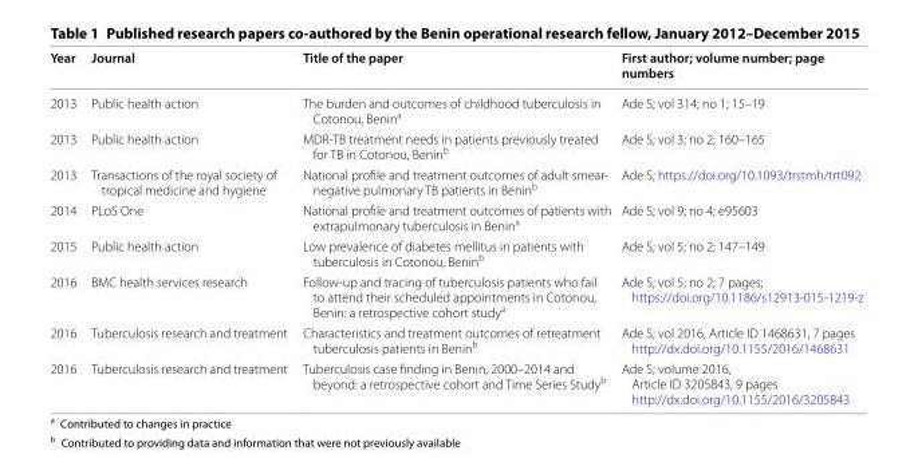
<table><thead><tr><td>Year</td><td>Journal</td><td>Title of the paper</td><td>First author; volume number; page numbers</td></tr></thead><tbody><tr><td>2013</td><td>Public health action</td><td>The burden and outcomes of childhood tuberculosis in Cotonou, Benin<sup>a</sup></td><td>Ade S; vol 314; no 1; 15–19</td></tr><tr><td>2013</td><td>Public health action</td><td>MDR-TB treatment needs in patients previously treated for TB in Cotonou, Benin<sup>b</sup></td><td>Ade S; vol 3; no 2; 160–165</td></tr><tr><td>2013</td><td>Transactions of the royal society of tropical medicine and hygiene</td><td>National profile and treatment outcomes of adult smear- negative pulmonary TB patients in Benin<sup>b</sup></td><td>Ade S; https://doi.org/10.1093/trstmh/trt092</td></tr><tr><td>2014</td><td>PLoS One</td><td>National profile and treatment outcomes of patients with extrapulmonary tuberculosis in Benin<sup>a</sup></td><td>Ade S; vol 9; no 4; e95603</td></tr><tr><td>2015</td><td>Public health action</td><td>Low prevalence of diabetes mellitus in patients with tuberculosis in Cotonou, Benin<sup>b</sup></td><td>Ade S; vol 5; no 2; 147–149</td></tr><tr><td>2016</td><td>BMC health services research</td><td>Follow-up and tracing of tuberculosis patients who fail to attend their scheduled appointments in Cotonou, Benin: a retrospective cohort study<sup>a</sup></td><td>Ade S; vol 5; no 2; 7 pages; https://doi.org/10.1186/s12913-015-1219-z</td></tr><tr><td>2016</td><td>Tuberculosis research and treatment</td><td>Characteristics and treatment outcomes of retreatment tuberculosis patients in Benin<sup>b</sup></td><td>Ade S; vol 2016, Article ID 1468631, 7 pages http://dx.doi.org/10.1155/2016/1468631</td></tr><tr><td>2016</td><td>Tuberculosis research and treatment</td><td>Tuberculosis case finding in Benin, 2000–2014 and beyond: a retrospective cohort and Time Series Study<sup>b</sup></td><td>Ade S; volume 2016, Article ID 3205843, 9 pages http://dx.doi.org/10.1155/2016/3205843</td></tr></tbody></table>